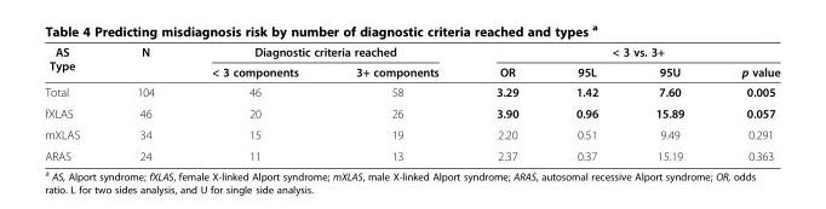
<table><thead><tr><td rowspan="2">AS Type</td><td rowspan="2">N</td><td colspan="2">Diagnostic criteria reached</td><td colspan="4">&lt; 3 vs. 3+</td></tr><tr><td>&lt; 3 components</td><td>3+ components</td><td>OR</td><td>95L</td><td>95U</td><td>p value</td></tr></thead><tbody><tr><td>Total</td><td>104</td><td>46</td><td>58</td><td>3.29</td><td>1.42</td><td>7.60</td><td>0.005</td></tr><tr><td>fXLAS</td><td>46</td><td>20</td><td>26</td><td>3.90</td><td>0.96</td><td>15.89</td><td>0.057</td></tr><tr><td>mXLAS</td><td>34</td><td>15</td><td>19</td><td>2.20</td><td>0.51</td><td>9.49</td><td>0.291</td></tr><tr><td>ARAS</td><td>24</td><td>11</td><td>13</td><td>2.37</td><td>0.37</td><td>15.19</td><td>0.363</td></tr></tbody></table>